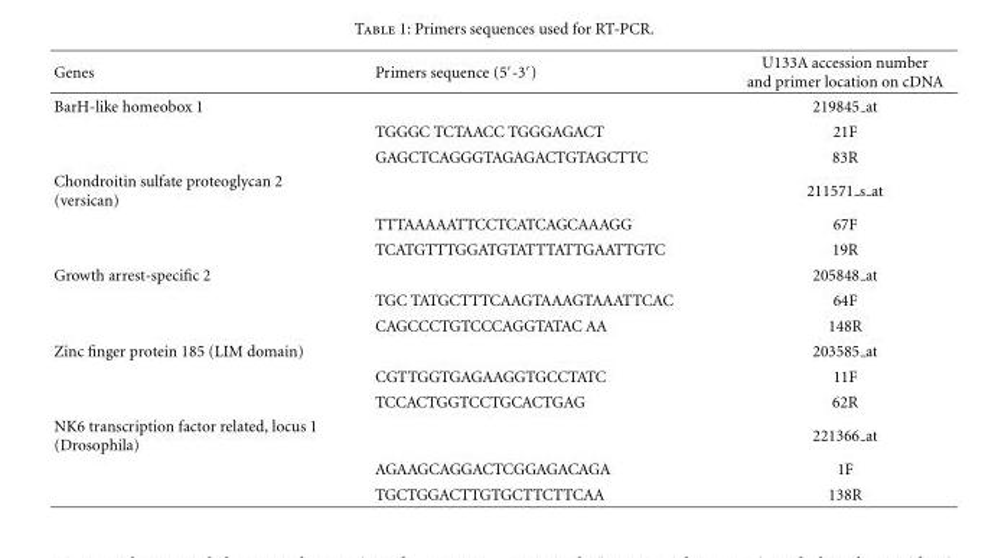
<table><thead><tr><td>Genes</td><td>Primers sequence (5′-3′)</td><td>U133A accession number and primer location on cDNA</td></tr></thead><tbody><tr><td rowspan="3">BarH-like homeobox 1</td><td></td><td>219845 at</td></tr><tr><td>TGGGC TCTAACC TGGGAGACT</td><td>21F</td></tr><tr><td>GAGCTCAGGGTAGAGACTGTAGCTTC</td><td>83R</td></tr><tr><td rowspan="3">Chondroitin sulfate proteoglycan 2 (versican)</td><td></td><td>211571 <sub>s</sub> at</td></tr><tr><td>TTTAAAAATTCCTCATCAGCAAAGG</td><td>67F</td></tr><tr><td>TCATGTTTGGATGTATTTATTGAATTGTC</td><td>19R</td></tr><tr><td rowspan="3">Growth arrest-specific 2</td><td></td><td>205848 at</td></tr><tr><td>TGC TATGCTTTCAAGTAAAGTAAATTCAC</td><td>64F</td></tr><tr><td>CAGCCCTGTCCCAGGTATAC AA</td><td>148R</td></tr><tr><td rowspan="3">Zinc finger protein 185 (LIM domain)</td><td></td><td>203585 at</td></tr><tr><td>CGTTGGTGAGAAGGTGCCTATC</td><td>11F</td></tr><tr><td>TCCACTGGTCCTGCACTGAG</td><td>62R</td></tr><tr><td rowspan="3">NK6 transcription factor related, locus 1 (Drosophila)</td><td></td><td>221366 at</td></tr><tr><td>AGAAGCAGGACTCGGAGACAGA</td><td>1F</td></tr><tr><td>TGCTGGACTTGTGCTTCTTCAA</td><td>138R</td></tr></tbody></table>